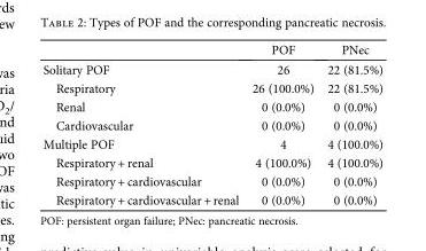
<table><thead><tr><td></td><td>POF</td><td>PNec</td></tr></thead><tbody><tr><td>Solitary POF</td><td>26</td><td>22 (81.5%)</td></tr><tr><td>Respiratory</td><td>26 (100.0%)</td><td>22 (81.5%)</td></tr><tr><td>Renal</td><td>0 (0.0%)</td><td>0 (0.0%)</td></tr><tr><td>Cardiovascular</td><td>0 (0.0%)</td><td>0 (0.0%)</td></tr><tr><td>Multiple POF</td><td>4</td><td>4 (100.0%)</td></tr><tr><td>Respiratory + renal</td><td>4 (100.0%)</td><td>4 (100.0%)</td></tr><tr><td>Respiratory + cardiovascular</td><td>0 (0.0%)</td><td>0 (0.0%)</td></tr><tr><td>Respiratory + cardiovascular + renal</td><td>0 (0.0%)</td><td>0 (0.0%)</td></tr></tbody></table>